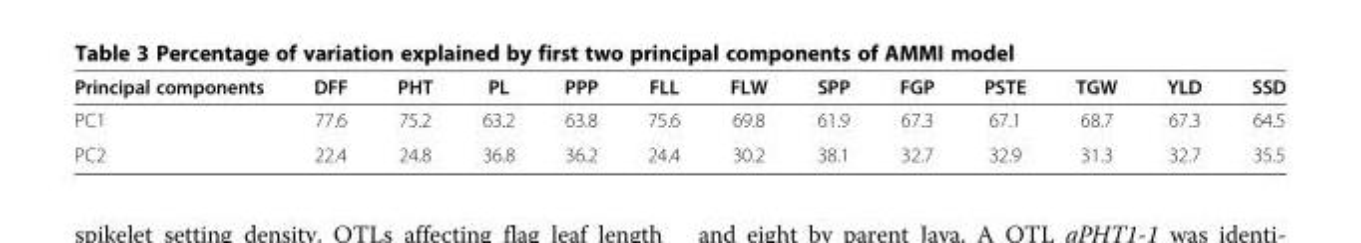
<table><thead><tr><td>Principal components</td><td>DFF</td><td>PHT</td><td>PL</td><td>PPP</td><td>FLL</td><td>FLW</td><td>SPP</td><td>FGP</td><td>PSTE</td><td>TGW</td><td>YLD</td><td>SSD</td></tr></thead><tbody><tr><td>PC1</td><td>77.6</td><td>75.2</td><td>63.2</td><td>63.8</td><td>75.6</td><td>69.8</td><td>61.9</td><td>67.3</td><td>67.1</td><td>68.7</td><td>67.3</td><td>64.5</td></tr><tr><td>PC2</td><td>22.4</td><td>24.8</td><td>36.8</td><td>36.2</td><td>24.4</td><td>30.2</td><td>38.1</td><td>32.7</td><td>32.9</td><td>31.3</td><td>32.7</td><td>35.5</td></tr></tbody></table>